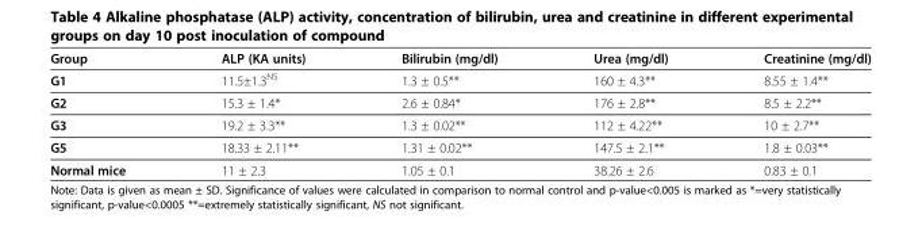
<table><thead><tr><td>Group</td><td>ALP (KA units)</td><td>Bilirubin (mg/dl)</td><td>Urea (mg/dl)</td><td>Creatinine (mg/dl)</td></tr></thead><tbody><tr><td>G1</td><td>11.5±1.3<sup>NS</sup></td><td>1.3 ± 0.5**</td><td>160 ± 4.3**</td><td>8.55 ± 1.4**</td></tr><tr><td>G2</td><td>15.3 ± 1.4*</td><td>2.6 ± 0.84*</td><td>176 ± 2.8**</td><td>8.5 ± 2.2**</td></tr><tr><td>G3</td><td>19.2 ± 3.3**</td><td>1.3 ± 0.02**</td><td>112 ± 4.22**</td><td>10 ± 2.7**</td></tr><tr><td>G5</td><td>18.33 ± 2.11**</td><td>1.31 ± 0.02**</td><td>147.5 ± 2.1**</td><td>1.8 ± 0.03**</td></tr><tr><td>Normal mice</td><td>11 ± 2.3</td><td>1.05 ± 0.1</td><td>38.26 ± 2.6</td><td>0.83 ± 0.1</td></tr></tbody></table>